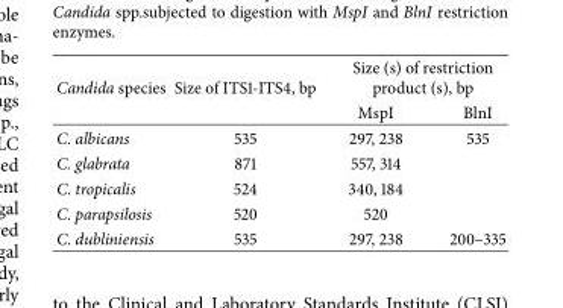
<table><thead><tr><td rowspan="2">Candida species</td><td rowspan="2">Size of ITS1-ITS4, bp</td><td colspan="2">Size (s) of restriction product (s), bp</td></tr><tr><td>MspI</td><td>BlnI</td></tr></thead><tbody><tr><td>C. albicans</td><td>535</td><td>297, 238</td><td>535</td></tr><tr><td>C. glabrata</td><td>871</td><td>557, 314</td><td></td></tr><tr><td>C. tropicalis</td><td>524</td><td>340, 184</td><td></td></tr><tr><td>C. parapsilosis</td><td>520</td><td>520</td><td></td></tr><tr><td>C. dubliniensis</td><td>535</td><td>297, 238</td><td>200–335</td></tr></tbody></table>